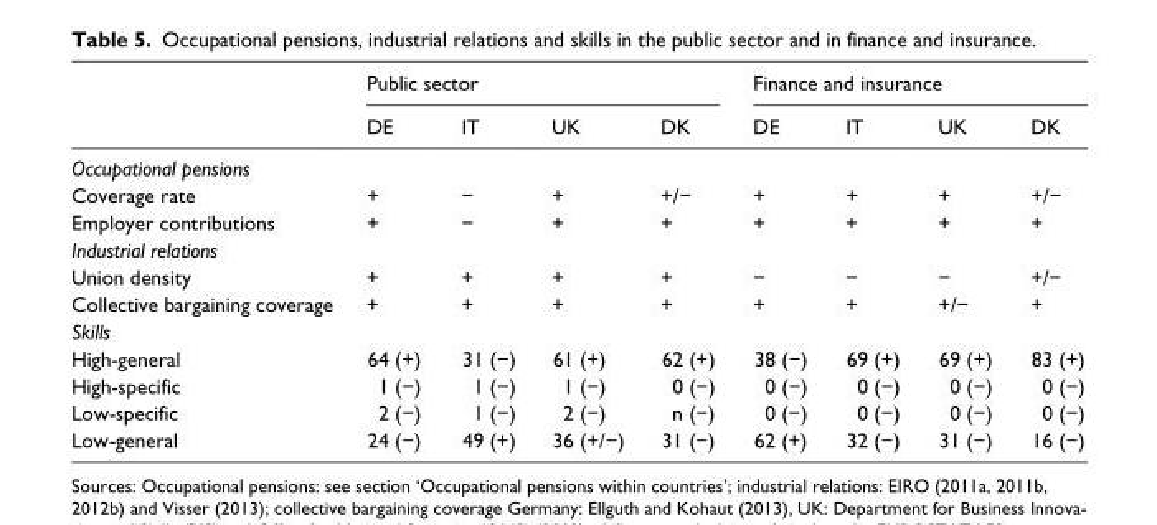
<table><thead><tr><td rowspan="2"></td><td colspan="4">Public sector</td><td colspan="4">Finance and insurance</td></tr><tr><td>DE</td><td>IT</td><td>UK</td><td>DK</td><td>DE</td><td>IT</td><td>UK</td><td>DK</td></tr></thead><tbody><tr><td colspan="9">Occupational pensions</td></tr><tr><td>Coverage rate</td><td>+</td><td>−</td><td>+</td><td>+/−</td><td>+</td><td>+</td><td>+</td><td>+/−</td></tr><tr><td>Employer contributions</td><td>+</td><td>−</td><td>+</td><td>+</td><td>+</td><td>+</td><td>+</td><td>+</td></tr><tr><td colspan="9">Industrial relations</td></tr><tr><td>Union density</td><td>+</td><td>+</td><td>+</td><td>+</td><td>−</td><td>−</td><td>−</td><td>+/−</td></tr><tr><td>Collective bargaining coverage</td><td>+</td><td>+</td><td>+</td><td>+</td><td>+</td><td>+</td><td>+/−</td><td>+</td></tr><tr><td colspan="9">Skills</td></tr><tr><td>High-general</td><td>64 (+)</td><td>31 (−)</td><td>61 (+)</td><td>62 (+)</td><td>38 (−)</td><td>69 (+)</td><td>69 (+)</td><td>83 (+)</td></tr><tr><td>High-specific</td><td>1 (−)</td><td>1 (−)</td><td>1 (−)</td><td>0 (−)</td><td>0 (−)</td><td>0 (−)</td><td>0 (−)</td><td>0 (−)</td></tr><tr><td>Low-specific</td><td>2 (−)</td><td>1 (−)</td><td>2 (−)</td><td>n (−)</td><td>0 (−)</td><td>0 (−)</td><td>0 (−)</td><td>0 (−)</td></tr><tr><td>Low-general</td><td>24 (−)</td><td>49 (+)</td><td>36 (+/−)</td><td>31 (−)</td><td>62 (+)</td><td>32 (−)</td><td>31 (−)</td><td>16 (−)</td></tr></tbody></table>